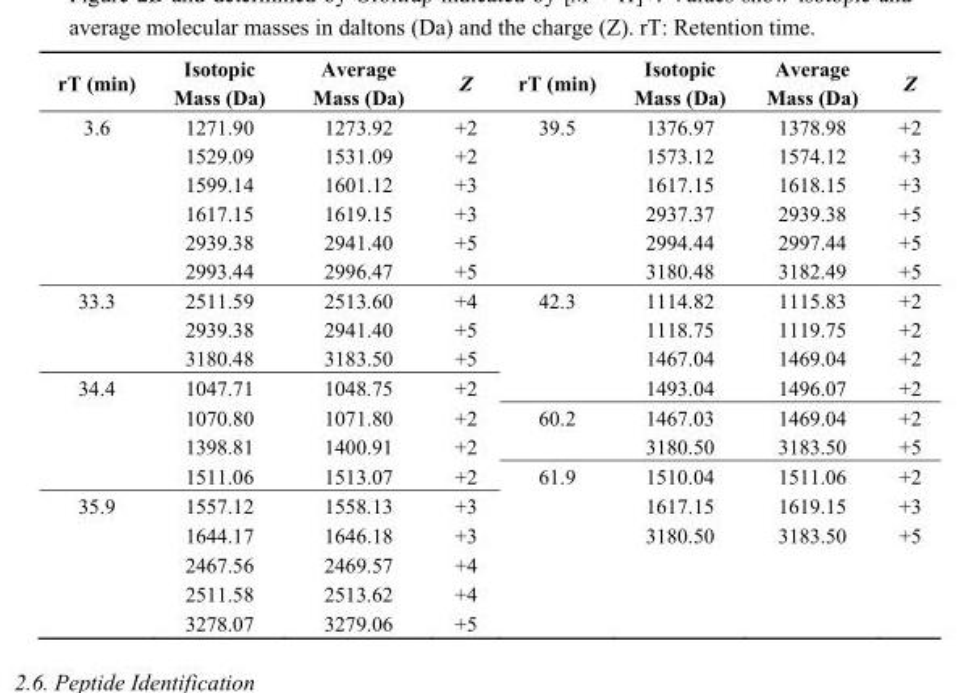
<table><thead><tr><td>rT (min)</td><td>Isotopic Mass (Da)</td><td>Average Mass (Da)</td><td>Z</td><td>rT (min)</td><td>Isotopic Mass (Da)</td><td>Average Mass (Da)</td><td>Z</td></tr></thead><tbody><tr><td rowspan="6">3.6</td><td>1271.90</td><td>1273.92</td><td>+2</td><td>39.5</td><td>1376.97</td><td>1378.98</td><td>+2</td></tr><tr><td>1529.09</td><td>1531.09</td><td>+2</td><td></td><td>1573.12</td><td>1574.12</td><td>+3</td></tr><tr><td>1599.14</td><td>1601.12</td><td>+3</td><td></td><td>1617.15</td><td>1618.15</td><td>+3</td></tr><tr><td>1617.15</td><td>1619.15</td><td>+3</td><td></td><td>2937.37</td><td>2939.38</td><td>+5</td></tr><tr><td>2939.38</td><td>2941.40</td><td>+5</td><td></td><td>2994.44</td><td>2997.44</td><td>+5</td></tr><tr><td>2993.44</td><td>2996.47</td><td>+5</td><td></td><td>3180.48</td><td>3182.49</td><td>+5</td></tr><tr><td rowspan="3">33.3</td><td>2511.59</td><td>2513.60</td><td>+4</td><td>42.3</td><td>1114.82</td><td>1115.83</td><td>+2</td></tr><tr><td>2939.38</td><td>2941.40</td><td>+5</td><td></td><td>1118.75</td><td>1119.75</td><td>+2</td></tr><tr><td>3180.48</td><td>3183.50</td><td>+5</td><td></td><td>1467.04</td><td>1469.04</td><td>+2</td></tr><tr><td rowspan="4">34.4</td><td>1047.71</td><td>1048.75</td><td>+2</td><td></td><td>1493.04</td><td>1496.07</td><td>+2</td></tr><tr><td>1070.80</td><td>1071.80</td><td>+2</td><td>60.2</td><td>1467.03</td><td>1469.04</td><td>+2</td></tr><tr><td>1398.81</td><td>1400.91</td><td>+2</td><td></td><td>3180.50</td><td>3183.50</td><td>+5</td></tr><tr><td>1511.06</td><td>1513.07</td><td>+2</td><td>61.9</td><td>1510.04</td><td>1511.06</td><td>+2</td></tr><tr><td rowspan="5">35.9</td><td>1557.12</td><td>1558.13</td><td>+3</td><td></td><td>1617.15</td><td>1619.15</td><td>+3</td></tr><tr><td>1644.17</td><td>1646.18</td><td>+3</td><td></td><td>3180.50</td><td>3183.50</td><td>+5</td></tr><tr><td>2467.56</td><td>2469.57</td><td>+4</td><td></td><td></td><td></td><td></td></tr><tr><td>2511.58</td><td>2513.62</td><td>+4</td><td></td><td></td><td></td><td></td></tr><tr><td>3278.07</td><td>3279.06</td><td>+5</td><td></td><td></td><td></td><td></td></tr></tbody></table>